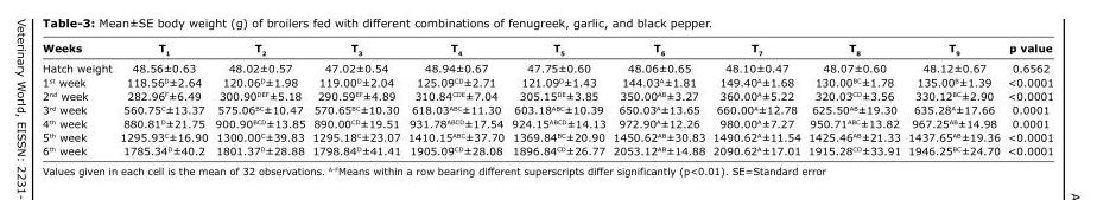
<table><thead><tr><td>Weeks</td><td>T<sub>1</sub></td><td>T<sub>2</sub></td><td>T<sub>3</sub></td><td>T<sub>4</sub></td><td>T<sub>5</sub></td><td>T<sub>6</sub></td><td>T<sub>7</sub></td><td>T<sub>8</sub></td><td>T<sub>9</sub></td><td>p value</td></tr></thead><tbody><tr><td>Hatch weight</td><td>48.56±0.63</td><td>48.02±0.57</td><td>47.02±0.54</td><td>48.94±0.67</td><td>47.75±0.60</td><td>48.06±0.65</td><td>48.10±0.47</td><td>48.07±0.60</td><td>48.12±0.67</td><td>0.6562</td></tr><tr><td>1<sup>st</sup> week</td><td>118.56<sup>D</sup>±2.64</td><td>120.06<sup>D</sup>±1.98</td><td>119.00<sup>D</sup>±2.04</td><td>125.09<sup>CD</sup>±2.71</td><td>121.09<sup>D</sup>±1.43</td><td>144.03<sup>A</sup>±1.81</td><td>149.40<sup>A</sup>±1.68</td><td>130.00<sup>BC</sup>±1.78</td><td>135.00<sup>B</sup>±1.39</td><td>&lt;0.0001</td></tr><tr><td>2<sup>nd</sup> week</td><td>282.96<sup>F</sup>±6.49</td><td>300.90<sup>DEF</sup>±5.18</td><td>290.59<sup>EF</sup>±4.89</td><td>310.84<sup>CDE</sup>±7.04</td><td>305.15<sup>DE</sup>±3.85</td><td>350.00<sup>AB</sup>±3.27</td><td>360.00<sup>A</sup>±5.22</td><td>320.03<sup>CD</sup>±3.56</td><td>330.12<sup>BC</sup>±2.90</td><td>&lt;0.0001</td></tr><tr><td>3<sup>rd</sup> week</td><td>560.75<sup>C</sup>±13.37</td><td>575.06<sup>BC</sup>±10.47</td><td>570.65<sup>BC</sup>±10.30</td><td>618.03<sup>ABC</sup>±11.30</td><td>603.18<sup>ABC</sup>±10.39</td><td>650.03<sup>A</sup>±13.65</td><td>660.00<sup>A</sup>±12.78</td><td>625.50<sup>AB</sup>±19.30</td><td>635.28<sup>A</sup>±17.66</td><td>0.0001</td></tr><tr><td>4<sup>th</sup> week</td><td>880.81<sup>D</sup>±21.75</td><td>900.90<sup>BCD</sup>±13.85</td><td>890.00<sup>CD</sup>±19.51</td><td>931.78<sup>ABCD</sup>±17.54</td><td>924.15<sup>ABCD</sup>±14.13</td><td>972.90<sup>A</sup>±12.26</td><td>980.00<sup>A</sup>±7.27</td><td>950.71<sup>ABC</sup>±13.82</td><td>967.25<sup>AB</sup>±14.98</td><td>0.0001</td></tr><tr><td>5<sup>th</sup> week</td><td>1295.93<sup>C</sup>±16.90</td><td>1300.00<sup>C</sup>±39.83</td><td>1295.18<sup>C</sup>±23.07</td><td>1410.15<sup>ABC</sup>±37.70</td><td>1369.84<sup>BC</sup>±20.90</td><td>1450.62<sup>AB</sup>±30.83</td><td>1490.62<sup>A</sup>±11.54</td><td>1425.46<sup>AB</sup>±21.33</td><td>1437.65<sup>AB</sup>±19.36</td><td>&lt;0.0001</td></tr><tr><td>6<sup>th</sup> week</td><td>1785.34<sup>D</sup>±40.2</td><td>1801.37<sup>D</sup>±28.88</td><td>1798.84<sup>D</sup>±41.41</td><td>1905.09<sup>CD</sup>±28.08</td><td>1896.84<sup>CD</sup>±26.77</td><td>2053.12<sup>AB</sup>±14.88</td><td>2090.62<sup>A</sup>±17.01</td><td>1915.28<sup>CD</sup>±33.91</td><td>1946.25<sup>BC</sup>±24.70</td><td>&lt;0.0001</td></tr></tbody></table>